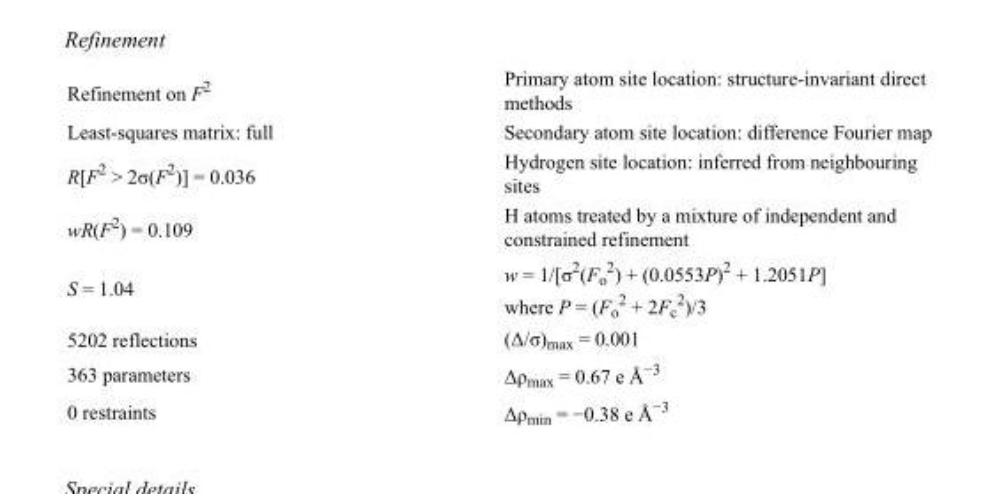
<table><tbody><tr><td>Refinement on F<sup>2</sup></td><td>Primary atom site location: structure-invariant direct methods</td></tr><tr><td>Least-squares matrix: full</td><td>Secondary atom site location: difference Fourier map</td></tr><tr><td>R[F<sup>2</sup> &gt; 2σ(F<sup>2</sup>)] = 0.036</td><td>Hydrogen site location: inferred from neighbouring sites</td></tr><tr><td>wR(F<sup>2</sup>) = 0.109</td><td>H atoms treated by a mixture of independent and constrained refinement</td></tr><tr><td>S = 1.04</td><td>w = 1/[σ<sup>2</sup>(F<sub>o</sub> <sup>2</sup>) + (0.0553P)<sup>2</sup> + 1.2051P] where P = (F<sub>o</sub> <sup>2</sup> + 2F<sub>c</sub> <sup>2</sup>)/3</td></tr><tr><td>5202 reflections</td><td>(Δ/σ)<sub>max</sub> = 0.001</td></tr><tr><td>363 parameters</td><td>Δρ<sub>max</sub> = 0.67 e Å<sup>−3</sup></td></tr><tr><td>0 restraints</td><td>Δρ<sub>min</sub> = −0.38 e Å<sup>−3</sup></td></tr></tbody></table>